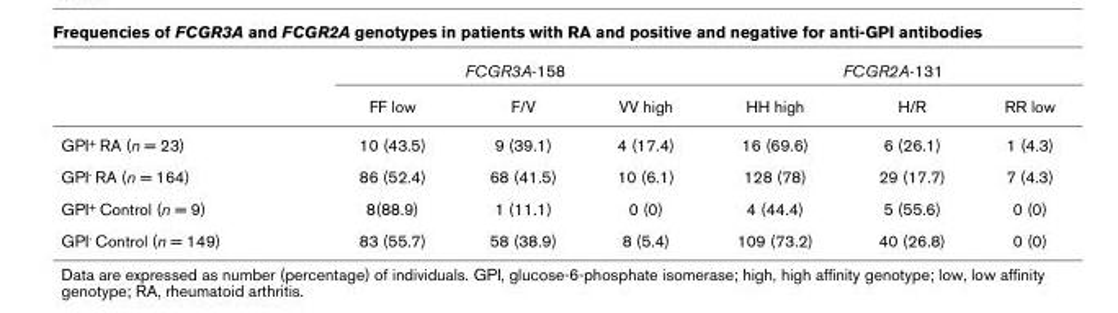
<table><thead><tr><td rowspan="2"></td><td colspan="3">FCGR3A-158</td><td colspan="3">FCGR2A-131</td></tr><tr><td>FF low</td><td>F/V</td><td>VV high</td><td>HH high</td><td>H/R</td><td>RR low</td></tr></thead><tbody><tr><td>GPI+ RA (n = 23)</td><td>10 (43.5)</td><td>9 (39.1)</td><td>4 (17.4)</td><td>16 (69.6)</td><td>6 (26.1)</td><td>1 (4.3)</td></tr><tr><td>GPI- RA (n = 164)</td><td>86 (52.4)</td><td>68 (41.5)</td><td>10 (6.1)</td><td>128 (78)</td><td>29 (17.7)</td><td>7 (4.3)</td></tr><tr><td>GPI+ Control (n = 9)</td><td>8(88.9)</td><td>1 (11.1)</td><td>0 (0)</td><td>4 (44.4)</td><td>5 (55.6)</td><td>0 (0)</td></tr><tr><td>GPI- Control (n = 149)</td><td>83 (55.7)</td><td>58 (38.9)</td><td>8 (5.4)</td><td>109 (73.2)</td><td>40 (26.8)</td><td>0 (0)</td></tr></tbody></table>